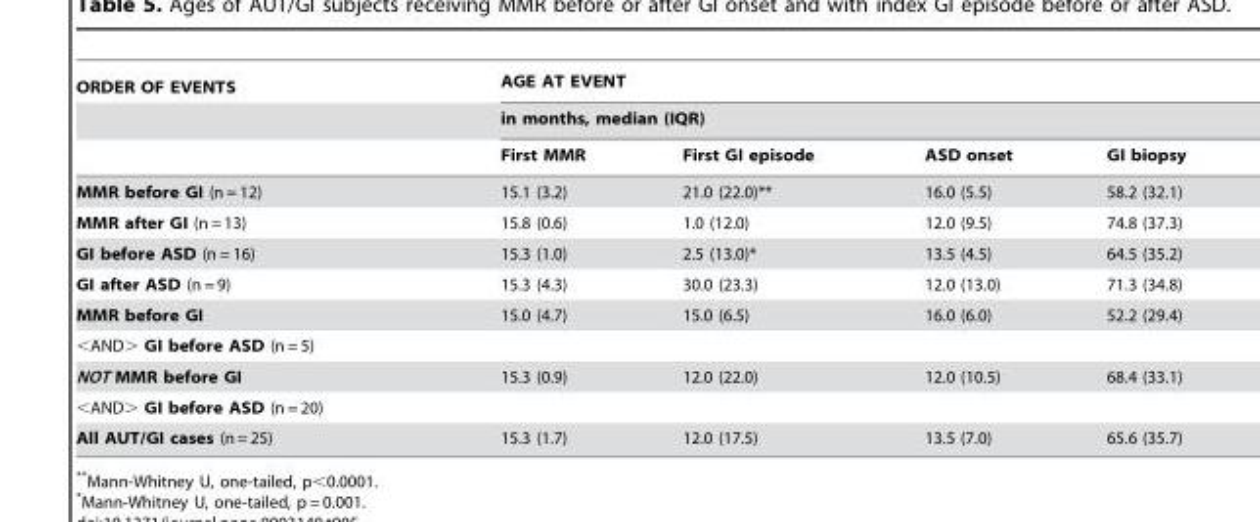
<table><thead><tr><td rowspan="3">ORDER OF EVENTS</td><td rowspan="2" colspan="4">AGE AT EVENT in months, median (IQR)</td></tr><tr></tr><tr><td>First MMR</td><td>First GI episode</td><td>ASD onset</td><td>GI biopsy</td></tr></thead><tbody><tr><td>MMR before GI (n = 12)</td><td>15.1 (3.2)</td><td>21.0 (22.0)**</td><td>16.0 (5.5)</td><td>58.2 (32.1)</td></tr><tr><td>MMR after GI (n = 13)</td><td>15.8 (0.6)</td><td>1.0 (12.0)</td><td>12.0 (9.5)</td><td>74.8 (37.3)</td></tr><tr><td>GI before ASD (n = 16)</td><td>15.3 (1.0)</td><td>2.5 (13.0)*</td><td>13.5 (4.5)</td><td>64.5 (35.2)</td></tr><tr><td>GI after ASD (n = 9)</td><td>15.3 (4.3)</td><td>30.0 (23.3)</td><td>12.0 (13.0)</td><td>71.3 (34.8)</td></tr><tr><td>MMR before GI</td><td>15.0 (4.7)</td><td>15.0 (6.5)</td><td>16.0 (6.0)</td><td>52.2 (29.4)</td></tr><tr><td colspan="5">&lt;AND&gt; GI before ASD (n = 5)</td></tr><tr><td>NOT MMR before GI</td><td>15.3 (0.9)</td><td>12.0 (22.0)</td><td>12.0 (10.5)</td><td>68.4 (33.1)</td></tr><tr><td colspan="5">&lt;AND&gt; GI before ASD (n = 20)</td></tr><tr><td>All AUT/GI cases (n = 25)</td><td>15.3 (1.7)</td><td>12.0 (17.5)</td><td>13.5 (7.0)</td><td>65.6 (35.7)</td></tr></tbody></table>